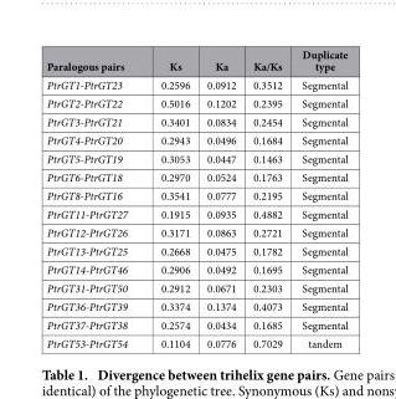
<table><thead><tr><td>Paralogous pairs</td><td>Ks</td><td>Ka</td><td>Ka/Ks</td><td>Duplicate type</td></tr></thead><tbody><tr><td>PtrGT1-PtrGT23</td><td>0.2596</td><td>0.0912</td><td>0.3512</td><td>Segmental</td></tr><tr><td>PtrGT2-PtrGT22</td><td>0.5016</td><td>0.1202</td><td>0.2395</td><td>Segmental</td></tr><tr><td>PtrGT3-PtrGT21</td><td>0.3401</td><td>0.0834</td><td>0.2454</td><td>Segmental</td></tr><tr><td>PtrGT4-PtrGT20</td><td>0.2943</td><td>0.0496</td><td>0.1684</td><td>Segmental</td></tr><tr><td>PtrGT5-PtrGT19</td><td>0.3053</td><td>0.0447</td><td>0.1463</td><td>Segmental</td></tr><tr><td>PtrGT6-PtrGT18</td><td>0.2970</td><td>0.0524</td><td>0.1763</td><td>Segmental</td></tr><tr><td>PtrGT8-PtrGT16</td><td>0.3541</td><td>0.0777</td><td>0.2195</td><td>Segmental</td></tr><tr><td>PtrGT11-PtrGT27</td><td>0.1915</td><td>0.0935</td><td>0.4882</td><td>Segmental</td></tr><tr><td>PtrGT12-PtrGT26</td><td>0.3171</td><td>0.0863</td><td>0.2721</td><td>Segmental</td></tr><tr><td>PtrGT13-PtrGT25</td><td>0.2668</td><td>0.0475</td><td>0.1782</td><td>Segmental</td></tr><tr><td>PtrGT14-PtrGT46</td><td>0.2906</td><td>0.0492</td><td>0.1695</td><td>Segmental</td></tr><tr><td>PtrGT31-PtrGT50</td><td>0.2912</td><td>0.0671</td><td>0.2303</td><td>Segmental</td></tr><tr><td>PtrGT36-PtrGT39</td><td>0.3374</td><td>0.1374</td><td>0.4073</td><td>Segmental</td></tr><tr><td>PtrGT37-PtrGT38</td><td>0.2574</td><td>0.0434</td><td>0.1685</td><td>Segmental</td></tr><tr><td>PtrGT53-PtrGT54</td><td>0.1104</td><td>0.0776</td><td>0.7029</td><td>tandem</td></tr></tbody></table>